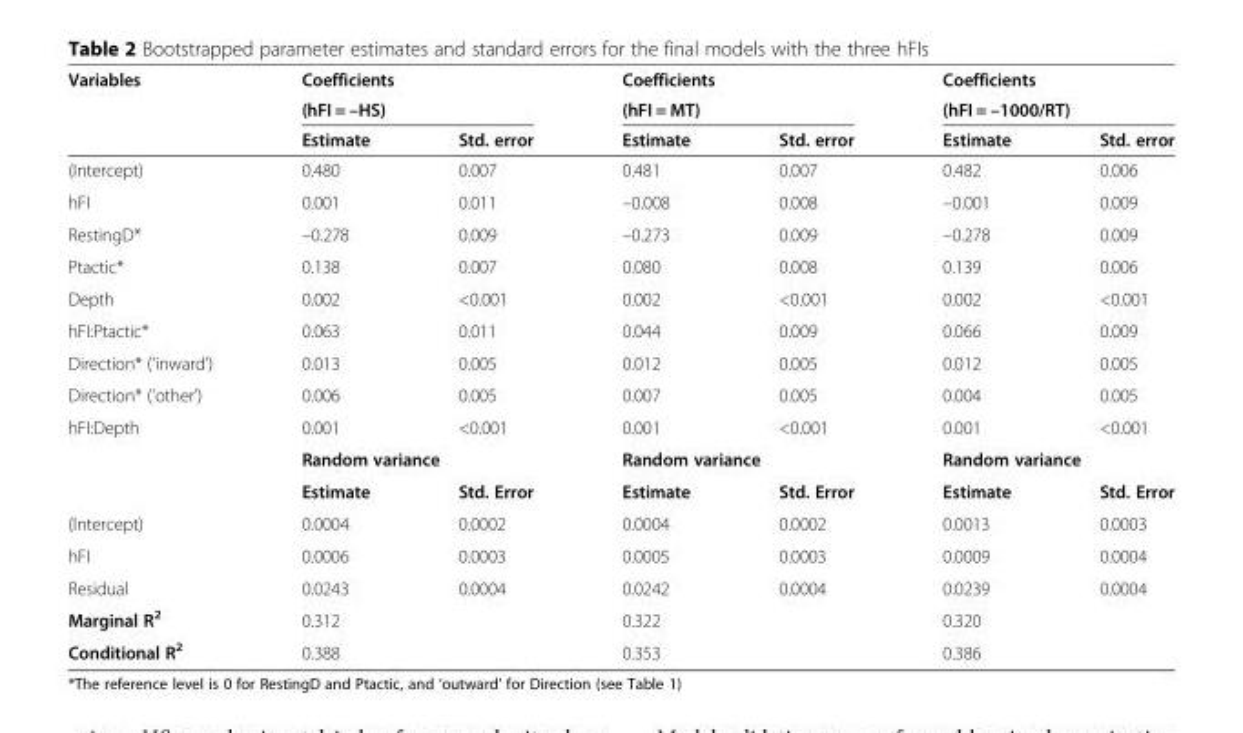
<table><thead><tr><td rowspan="3">Variables</td><td rowspan="2" colspan="2">Coefficients (hFI = –HS)</td><td rowspan="2" colspan="2">Coefficients (hFI = MT)</td><td rowspan="2" colspan="2">Coefficients (hFI = –1000/RT)</td></tr><tr></tr><tr><td>Estimate</td><td>Std. error</td><td>Estimate</td><td>Std. error</td><td>Estimate</td><td>Std. error</td></tr></thead><tbody><tr><td>(Intercept)</td><td>0.480</td><td>0.007</td><td>0.481</td><td>0.007</td><td>0.482</td><td>0.006</td></tr><tr><td>hFI</td><td>0.001</td><td>0.011</td><td>–0.008</td><td>0.008</td><td>–0.001</td><td>0.009</td></tr><tr><td>RestingD*</td><td>–0.278</td><td>0.009</td><td>–0.273</td><td>0.009</td><td>–0.278</td><td>0.009</td></tr><tr><td>Ptactic*</td><td>0.138</td><td>0.007</td><td>0.080</td><td>0.008</td><td>0.139</td><td>0.006</td></tr><tr><td>Depth</td><td>0.002</td><td>&lt;0.001</td><td>0.002</td><td>&lt;0.001</td><td>0.002</td><td>&lt;0.001</td></tr><tr><td>hFI:Ptactic*</td><td>0.063</td><td>0.011</td><td>0.044</td><td>0.009</td><td>0.066</td><td>0.009</td></tr><tr><td>Direction* (’inward’)</td><td>0.013</td><td>0.005</td><td>0.012</td><td>0.005</td><td>0.012</td><td>0.005</td></tr><tr><td>Direction* (’other’)</td><td>0.006</td><td>0.005</td><td>0.007</td><td>0.005</td><td>0.004</td><td>0.005</td></tr><tr><td rowspan="3">hFI:Depth</td><td>0.001</td><td>&lt;0.001</td><td>0.001</td><td>&lt;0.001</td><td>0.001</td><td>&lt;0.001</td></tr><tr><td colspan="2">Random variance</td><td colspan="2">Random variance</td><td colspan="2">Random variance</td></tr><tr><td>Estimate</td><td>Std. Error</td><td>Estimate</td><td>Std. Error</td><td>Estimate</td><td>Std. Error</td></tr><tr><td>(Intercept)</td><td>0.0004</td><td>0.0002</td><td>0.0004</td><td>0.0002</td><td>0.0013</td><td>0.0003</td></tr><tr><td>hFI</td><td>0.0006</td><td>0.0003</td><td>0.0005</td><td>0.0003</td><td>0.0009</td><td>0.0004</td></tr><tr><td>Residual</td><td>0.0243</td><td>0.0004</td><td>0.0242</td><td>0.0004</td><td>0.0239</td><td>0.0004</td></tr><tr><td>Marginal R<sup>2</sup></td><td colspan="2">0.312</td><td colspan="2">0.322</td><td colspan="2">0.320</td></tr><tr><td>Conditional R<sup>2</sup></td><td colspan="2">0.388</td><td colspan="2">0.353</td><td colspan="2">0.386</td></tr></tbody></table>